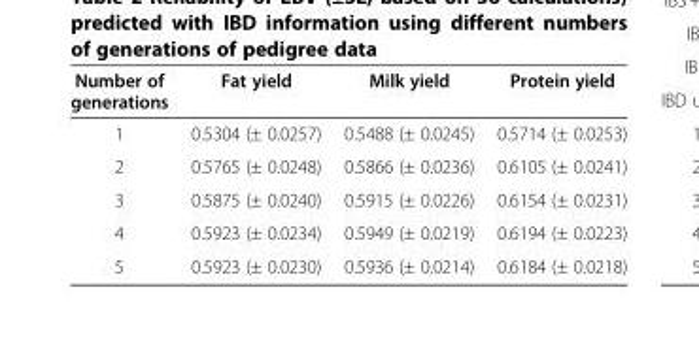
<table><thead><tr><td>Number of generations</td><td>Fat yield</td><td>Milk yield</td><td>Protein yield</td></tr></thead><tbody><tr><td>1</td><td>0.5304 (± 0.0257)</td><td>0.5488 (± 0.0245)</td><td>0.5714 (± 0.0253)</td></tr><tr><td>2</td><td>0.5765 (± 0.0248)</td><td>0.5866 (± 0.0236)</td><td>0.6105 (± 0.0241)</td></tr><tr><td>3</td><td>0.5875 (± 0.0240)</td><td>0.5915 (± 0.0226)</td><td>0.6154 (± 0.0231)</td></tr><tr><td>4</td><td>0.5923 (± 0.0234)</td><td>0.5949 (± 0.0219)</td><td>0.6194 (± 0.0223)</td></tr><tr><td>5</td><td>0.5923 (± 0.0230)</td><td>0.5936 (± 0.0214)</td><td>0.6184 (± 0.0218)</td></tr></tbody></table>